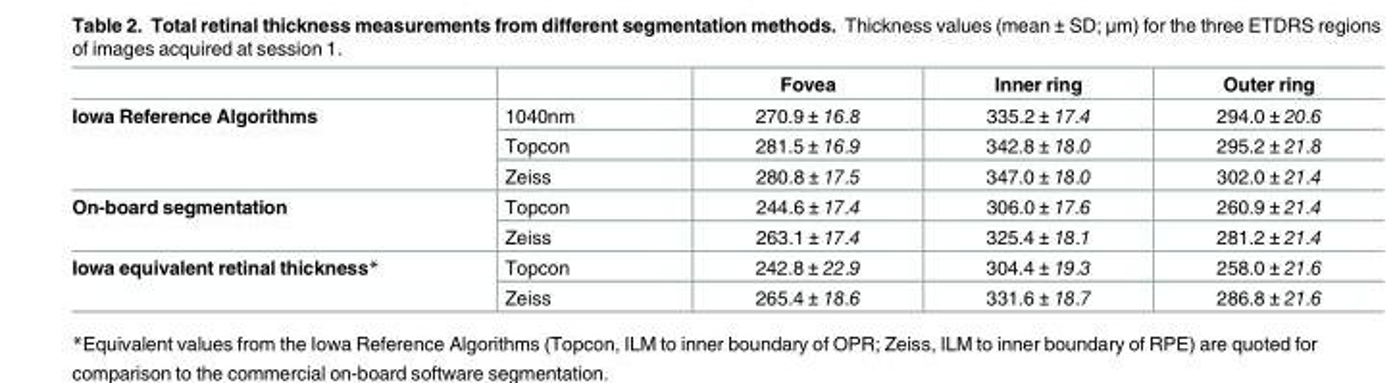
<table><thead><tr><td></td><td></td><td>Fovea</td><td>Inner ring</td><td>Outer ring</td></tr></thead><tbody><tr><td rowspan="3">Iowa Reference Algorithms</td><td>1040nm</td><td>270.9 ± 16.8</td><td>335.2 ± 17.4</td><td>294.0 ± 20.6</td></tr><tr><td>Topcon</td><td>281.5 ± 16.9</td><td>342.8 ± 18.0</td><td>295.2 ± 21.8</td></tr><tr><td>Zeiss</td><td>280.8 ± 17.5</td><td>347.0 ± 18.0</td><td>302.0 ± 21.4</td></tr><tr><td rowspan="2">On-board segmentation</td><td>Topcon</td><td>244.6 ± 17.4</td><td>306.0 ± 17.6</td><td>260.9 ± 21.4</td></tr><tr><td>Zeiss</td><td>263.1 ± 17.4</td><td>325.4 ± 18.1</td><td>281.2 ± 21.4</td></tr><tr><td rowspan="2">Iowa equivalent retinal thickness*</td><td>Topcon</td><td>242.8 ± 22.9</td><td>304.4 ± 19.3</td><td>258.0 ± 21.6</td></tr><tr><td>Zeiss</td><td>265.4 ± 18.6</td><td>331.6 ± 18.7</td><td>286.8 ± 21.6</td></tr></tbody></table>